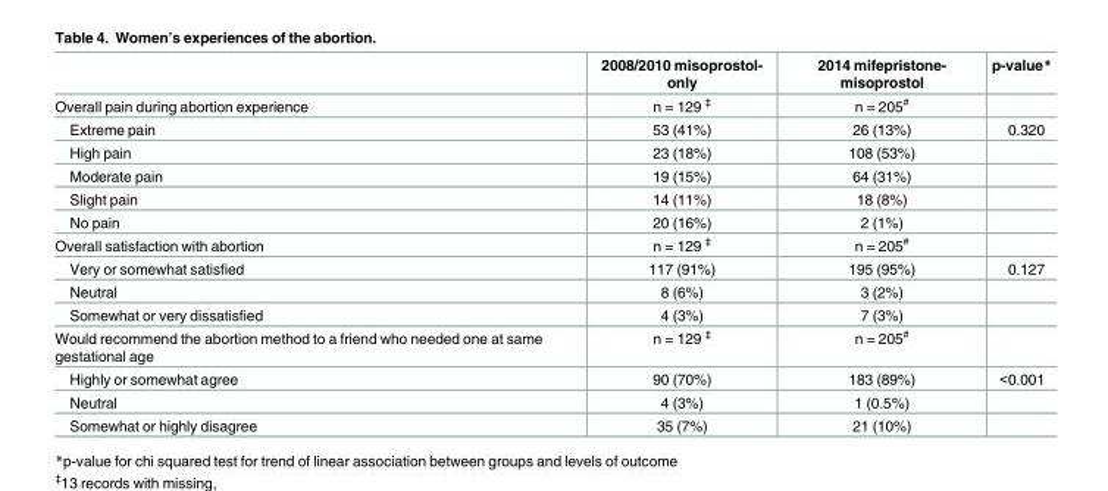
<table><thead><tr><td></td><td>2008/2010 misoprostol- only</td><td>2014 mifepristone- misoprostol</td><td>p-value*</td></tr></thead><tbody><tr><td>Overall pain during abortion experience</td><td>n = 129 <sup>‡</sup></td><td>n = 205<sup>#</sup></td><td></td></tr><tr><td>Extreme pain</td><td>53 (41%)</td><td>26 (13%)</td><td>0.320</td></tr><tr><td>High pain</td><td>23 (18%)</td><td>108 (53%)</td><td></td></tr><tr><td>Moderate pain</td><td>19 (15%)</td><td>64 (31%)</td><td></td></tr><tr><td>Slight pain</td><td>14 (11%)</td><td>18 (8%)</td><td></td></tr><tr><td>No pain</td><td>20 (16%)</td><td>2 (1%)</td><td></td></tr><tr><td>Overall satisfaction with abortion</td><td>n = 129 <sup>‡</sup></td><td>n = 205<sup>#</sup></td><td></td></tr><tr><td>Very or somewhat satisfied</td><td>117 (91%)</td><td>195 (95%)</td><td>0.127</td></tr><tr><td>Neutral</td><td>8 (6%)</td><td>3 (2%)</td><td></td></tr><tr><td>Somewhat or very dissatisfied</td><td>4 (3%)</td><td>7 (3%)</td><td></td></tr><tr><td>Would recommend the abortion method to a friend who needed one at same gestational age</td><td>n = 129 <sup>‡</sup></td><td>n = 205<sup>#</sup></td><td></td></tr><tr><td>Highly or somewhat agree</td><td>90 (70%)</td><td>183 (89%)</td><td>&lt;0.001</td></tr><tr><td>Neutral</td><td>4 (3%)</td><td>1 (0.5%)</td><td></td></tr><tr><td>Somewhat or highly disagree</td><td>35 (7%)</td><td>21 (10%)</td><td></td></tr></tbody></table>